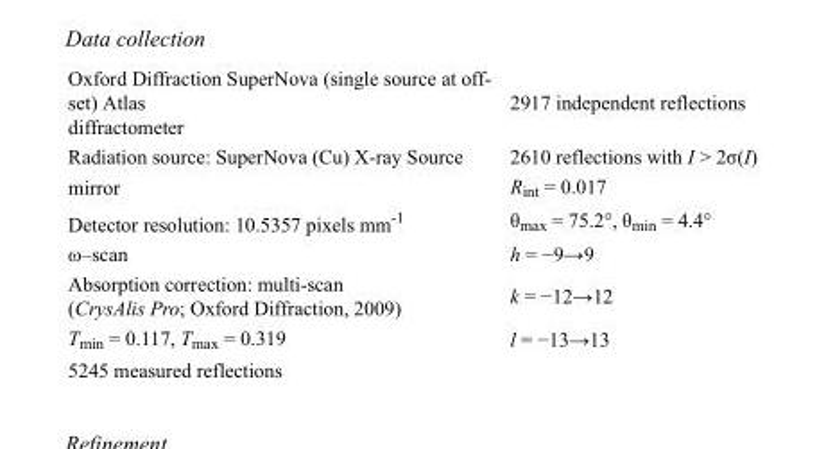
<table><tbody><tr><td>Oxford Diffraction SuperNova (single source at off- set) Atlas diffractometer</td><td>2917 independent reflections</td></tr><tr><td>Radiation source: SuperNova (Cu) X-ray Source</td><td>2610 reflections with I &gt; 2σ(I)</td></tr><tr><td>mirror</td><td>R<sub>int</sub> = 0.017</td></tr><tr><td>Detector resolution: 10.5357 pixels mm<sup>-1</sup></td><td>θ<sub>max</sub> = 75.2°, θ<sub>min</sub> = 4.4°</td></tr><tr><td>ω–scan</td><td>h = −9→9</td></tr><tr><td>Absorption correction: multi-scan (CrysAlis Pro; Oxford Diffraction, 2009)</td><td>k = −12→12</td></tr><tr><td>T<sub>min</sub> = 0.117, T<sub>max</sub> = 0.319</td><td>l = −13→13</td></tr><tr><td>5245 measured reflections</td><td></td></tr></tbody></table>